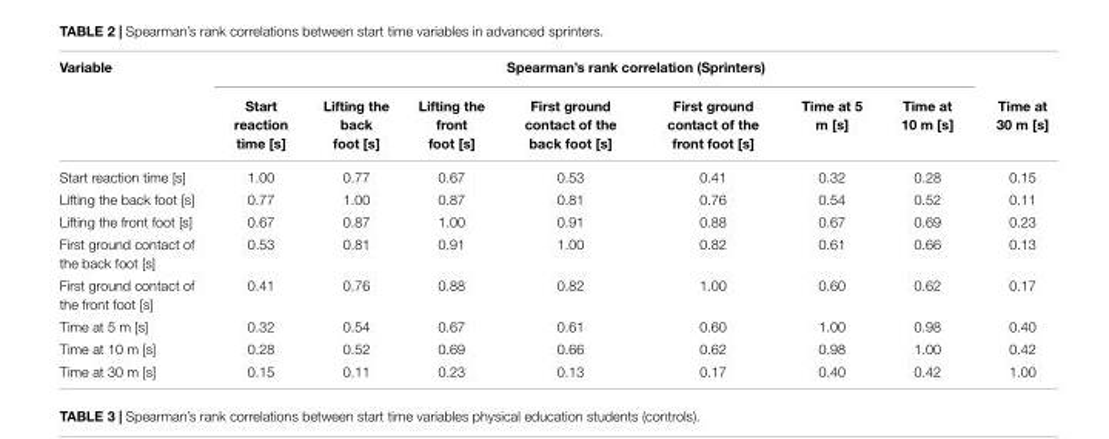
<table><thead><tr><td rowspan="2">Variable</td><td colspan="7">Spearman’s rank correlation (Sprinters)</td><td rowspan="2">Time at 30 m [s]</td></tr><tr><td>Start reaction time [s]</td><td>Lifting the back foot [s]</td><td>Lifting the front foot [s]</td><td>First ground contact of the back foot [s]</td><td>First ground contact of the front foot [s]</td><td>Time at 5 m [s]</td><td>Time at 10 m [s]</td></tr></thead><tbody><tr><td>Start reaction time [s]</td><td>1.00</td><td>0.77</td><td>0.67</td><td>0.53</td><td>0.41</td><td>0.32</td><td>0.28</td><td>0.15</td></tr><tr><td>Lifting the back foot [s]</td><td>0.77</td><td>1.00</td><td>0.87</td><td>0.81</td><td>0.76</td><td>0.54</td><td>0.52</td><td>0.11</td></tr><tr><td>Lifting the front foot [s]</td><td>0.67</td><td>0.87</td><td>1.00</td><td>0.91</td><td>0.88</td><td>0.67</td><td>0.69</td><td>0.23</td></tr><tr><td>First ground contact of the back foot [s]</td><td>0.53</td><td>0.81</td><td>0.91</td><td>1.00</td><td>0.82</td><td>0.61</td><td>0.66</td><td>0.13</td></tr><tr><td>First ground contact of the front foot [s]</td><td>0.41</td><td>0.76</td><td>0.88</td><td>0.82</td><td>1.00</td><td>0.60</td><td>0.62</td><td>0.17</td></tr><tr><td>Time at 5 m [s]</td><td>0.32</td><td>0.54</td><td>0.67</td><td>0.61</td><td>0.60</td><td>1.00</td><td>0.98</td><td>0.40</td></tr><tr><td>Time at 10 m [s]</td><td>0.28</td><td>0.52</td><td>0.69</td><td>0.66</td><td>0.62</td><td>0.98</td><td>1.00</td><td>0.42</td></tr><tr><td>Time at 30 m [s]</td><td>0.15</td><td>0.11</td><td>0.23</td><td>0.13</td><td>0.17</td><td>0.40</td><td>0.42</td><td>1.00</td></tr></tbody></table>